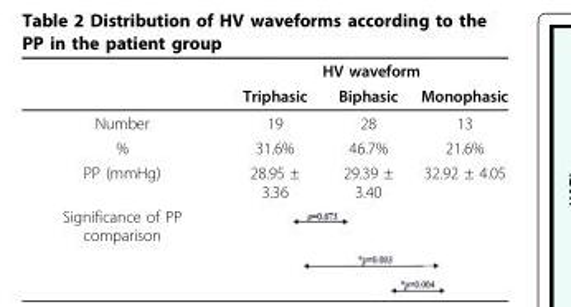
<table><thead><tr><td rowspan="2"></td><td colspan="3">HV waveform</td></tr><tr><td>Triphasic</td><td>Biphasic</td><td>Monophasic</td></tr></thead><tbody><tr><td>Number</td><td>19</td><td>28</td><td>13</td></tr><tr><td>%</td><td>31.6%</td><td>46.7%</td><td>21.6%</td></tr><tr><td>PP (mmHg)</td><td>28.95 ± 3.36</td><td>29.39 ± 3.40</td><td>32.92 ± 4.05</td></tr><tr><td>Significance of PP comparison</td><td colspan="2"></td><td></td></tr></tbody></table>